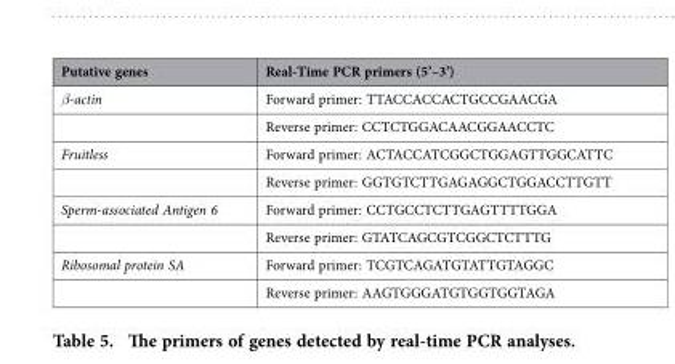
<table><thead><tr><td>Putative genes</td><td>Real-Time PCR primers (5’–3’)</td></tr></thead><tbody><tr><td rowspan="2">β-actin</td><td>Forward primer: TTACCACCACTGCCGAACGA</td></tr><tr><td>Reverse primer: CCTCTGGACAACGGAACCTC</td></tr><tr><td rowspan="2">Fruitless</td><td>Forward primer: ACTACCATCGGCTGGAGTTGGCATTC</td></tr><tr><td>Reverse primer: GGTGTCTTGAGAGGCTGGACCTTGTT</td></tr><tr><td rowspan="2">Sperm-associated Antigen 6</td><td>Forward primer: CCTGCCTCTTGAGTTTTGGA</td></tr><tr><td>Reverse primer: GTATCAGCGTCGGCTCTTTG</td></tr><tr><td rowspan="2">Ribosomal protein SA</td><td>Forward primer: TCGTCAGATGTATTGTAGGC</td></tr><tr><td>Reverse primer: AAGTGGGATGTGGTGGTAGA</td></tr></tbody></table>